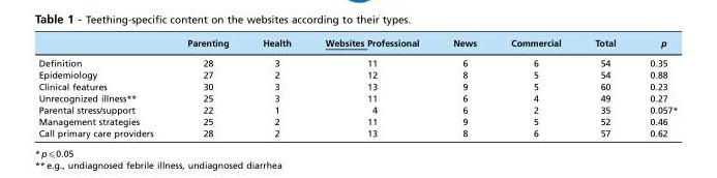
<table><thead><tr><td></td><td>Parenting</td><td>Health</td><td>Websites Professional</td><td>News</td><td>Commercial</td><td>Total</td><td>p</td></tr></thead><tbody><tr><td>Definition</td><td>28</td><td>3</td><td>11</td><td>6</td><td>6</td><td>54</td><td>0.35</td></tr><tr><td>Epidemiology</td><td>27</td><td>2</td><td>12</td><td>8</td><td>5</td><td>54</td><td>0.88</td></tr><tr><td>Clinical features</td><td>30</td><td>3</td><td>13</td><td>9</td><td>5</td><td>60</td><td>0.23</td></tr><tr><td>Unrecognized illness**</td><td>25</td><td>3</td><td>11</td><td>6</td><td>4</td><td>49</td><td>0.27</td></tr><tr><td>Parental stress/support</td><td>22</td><td>1</td><td>4</td><td>6</td><td>2</td><td>35</td><td>0.057*</td></tr><tr><td>Management strategies</td><td>25</td><td>2</td><td>11</td><td>9</td><td>5</td><td>52</td><td>0.46</td></tr><tr><td>Call primary care providers</td><td>28</td><td>2</td><td>13</td><td>8</td><td>6</td><td>57</td><td>0.62</td></tr></tbody></table>